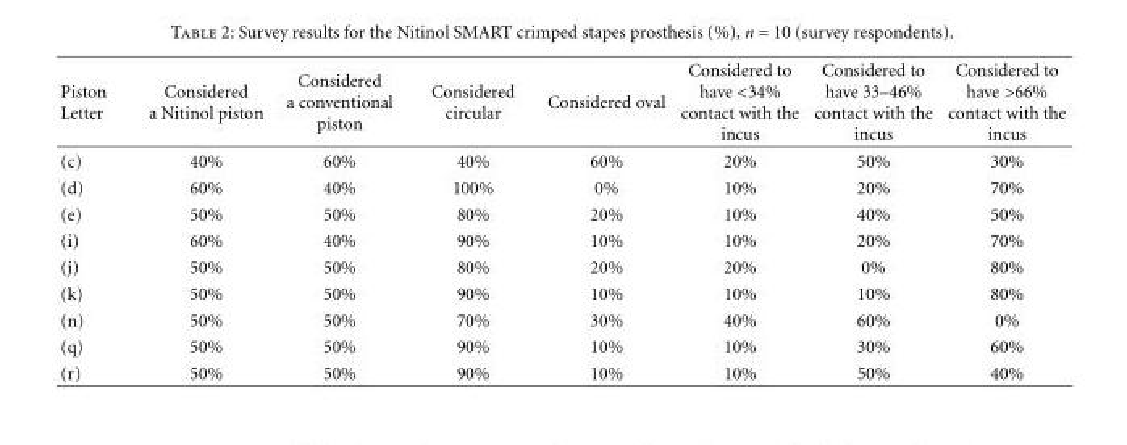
<table><thead><tr><td>Piston Letter</td><td>Considered a Nitinol piston</td><td>Considered a conventional piston</td><td>Considered circular</td><td>Considered oval</td><td>Considered to have &lt;34% contact with the incus</td><td>Considered to have 33–46% contact with the incus</td><td>Considered to have &gt;66% contact with the incus</td></tr></thead><tbody><tr><td>(c)</td><td>40%</td><td>60%</td><td>40%</td><td>60%</td><td>20%</td><td>50%</td><td>30%</td></tr><tr><td>(d)</td><td>60%</td><td>40%</td><td>100%</td><td>0%</td><td>10%</td><td>20%</td><td>70%</td></tr><tr><td>(e)</td><td>50%</td><td>50%</td><td>80%</td><td>20%</td><td>10%</td><td>40%</td><td>50%</td></tr><tr><td>(i)</td><td>60%</td><td>40%</td><td>90%</td><td>10%</td><td>10%</td><td>20%</td><td>70%</td></tr><tr><td>(j)</td><td>50%</td><td>50%</td><td>80%</td><td>20%</td><td>20%</td><td>0%</td><td>80%</td></tr><tr><td>(k)</td><td>50%</td><td>50%</td><td>90%</td><td>10%</td><td>10%</td><td>10%</td><td>80%</td></tr><tr><td>(n)</td><td>50%</td><td>50%</td><td>70%</td><td>30%</td><td>40%</td><td>60%</td><td>0%</td></tr><tr><td>(q)</td><td>50%</td><td>50%</td><td>90%</td><td>10%</td><td>10%</td><td>30%</td><td>60%</td></tr><tr><td>(r)</td><td>50%</td><td>50%</td><td>90%</td><td>10%</td><td>10%</td><td>50%</td><td>40%</td></tr></tbody></table>